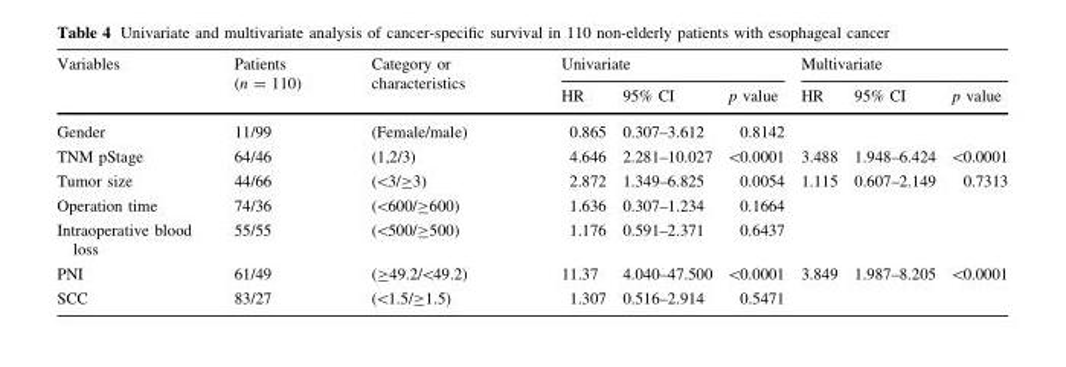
<table><thead><tr><td rowspan="2">Variables</td><td rowspan="2">Patients (n = 110)</td><td rowspan="2">Category or characteristics</td><td colspan="3">Univariate</td><td colspan="3">Multivariate</td></tr><tr><td>HR</td><td>95% CI</td><td>p value</td><td>HR</td><td>95% CI</td><td>p value</td></tr></thead><tbody><tr><td>Gender</td><td>11/99</td><td>(Female/male)</td><td>0.865</td><td>0.307–3.612</td><td>0.8142</td><td></td><td></td><td></td></tr><tr><td>TNM pStage</td><td>64/46</td><td>(1,2/3)</td><td>4.646</td><td>2.281–10.027</td><td>&lt;0.0001</td><td>3.488</td><td>1.948–6.424</td><td>&lt;0.0001</td></tr><tr><td>Tumor size</td><td>44/66</td><td>(&lt;3/≥3)</td><td>2.872</td><td>1.349–6.825</td><td>0.0054</td><td>1.115</td><td>0.607–2.149</td><td>0.7313</td></tr><tr><td>Operation time</td><td>74/36</td><td>(&lt;600/≥600)</td><td>1.636</td><td>0.307–1.234</td><td>0.1664</td><td></td><td></td><td></td></tr><tr><td>Intraoperative blood loss</td><td>55/55</td><td>(&lt;500/≥500)</td><td>1.176</td><td>0.591–2.371</td><td>0.6437</td><td></td><td></td><td></td></tr><tr><td>PNI</td><td>61/49</td><td>(≥49.2/&lt;49.2)</td><td>11.37</td><td>4.040–47.500</td><td>&lt;0.0001</td><td>3.849</td><td>1.987–8.205</td><td>&lt;0.0001</td></tr><tr><td>SCC</td><td>83/27</td><td>(&lt;1.5/≥1.5)</td><td>1.307</td><td>0.516–2.914</td><td>0.5471</td><td></td><td></td><td></td></tr></tbody></table>